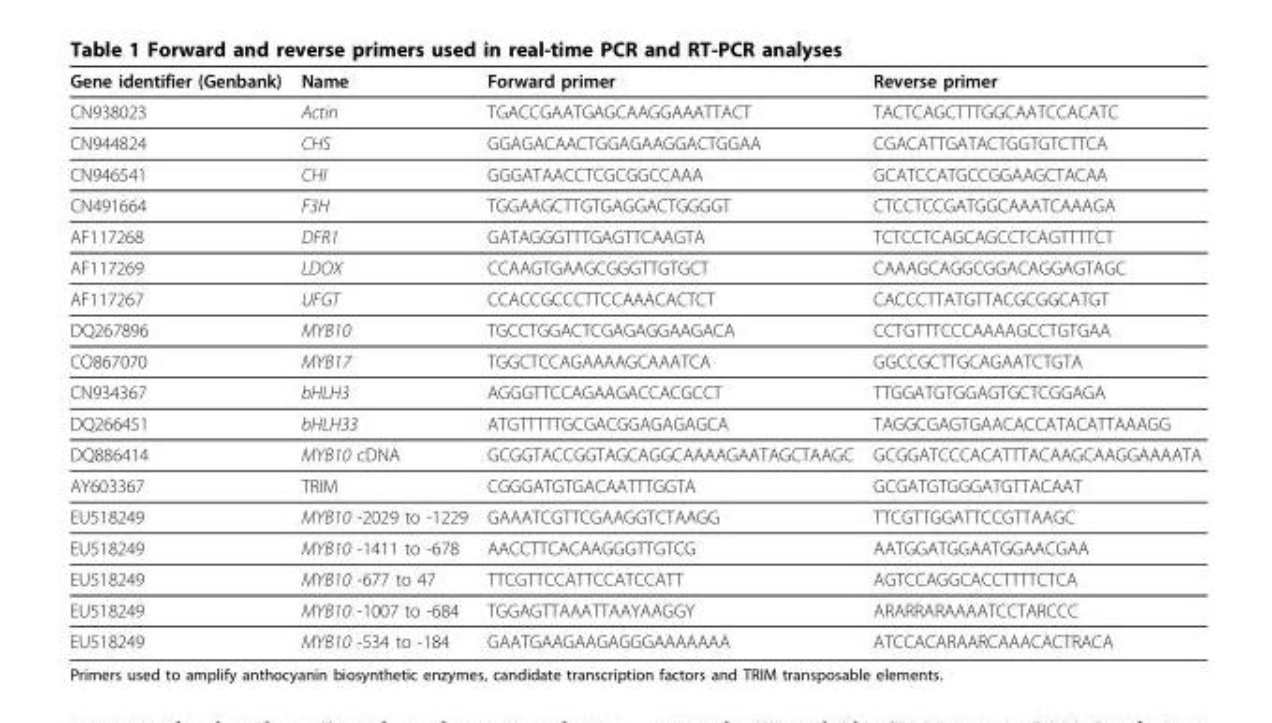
<table><thead><tr><td>Gene identifier (Genbank)</td><td>Name</td><td>Forward primer</td><td>Reverse primer</td></tr></thead><tbody><tr><td>CN938023</td><td>Actin</td><td>TGACCGAATGAGCAAGGAAATTACT</td><td>TACTCAGCTTTGGCAATCCACATC</td></tr><tr><td>CN944824</td><td>CHS</td><td>GGAGACAACTGGAGAAGGACTGGAA</td><td>CGACATTGATACTGGTGTCTTCA</td></tr><tr><td>CN946541</td><td>CHI</td><td>GGGATAACCTCGCGGCCAAA</td><td>GCATCCATGCCGGAAGCTACAA</td></tr><tr><td>CN491664</td><td>F3H</td><td>TGGAAGCTTGTGAGGACTGGGGT</td><td>CTCCTCCGATGGCAAATCAAAGA</td></tr><tr><td>AF117268</td><td>DFR1</td><td>GATAGGGTTTGAGTTCAAGTA</td><td>TCTCCTCAGCAGCCTCAGTTTTCT</td></tr><tr><td>AF117269</td><td>LDOX</td><td>CCAAGTGAAGCGGGTTGTGCT</td><td>CAAAGCAGGCGGACAGGAGTAGC</td></tr><tr><td>AF117267</td><td>UFGT</td><td>CCACCGCCCTTCCAAACACTCT</td><td>CACCCTTATGTTACGCGGCATGT</td></tr><tr><td>DQ267896</td><td>MYB10</td><td>TGCCTGGACTCGAGAGGAAGACA</td><td>CCTGTTTCCCAAAAGCCTGTGAA</td></tr><tr><td>CO867070</td><td>MYB17</td><td>TGGCTCCAGAAAAGCAAATCA</td><td>GGCCGCTTGCAGAATCTGTA</td></tr><tr><td>CN934367</td><td>bHLH3</td><td>AGGGTTCCAGAAGACCACGCCT</td><td>TTGGATGTGGAGTGCTCGGAGA</td></tr><tr><td>DQ266451</td><td>bHLH33</td><td>ATGTTTTTGCGACGGAGAGAGCA</td><td>TAGGCGAGTGAACACCATACATTAAAGG</td></tr><tr><td>DQ886414</td><td>MYB10 cDNA</td><td>GCGGTACCGGTAGCAGGCAAAAGAATAGCTAAGC</td><td>GCGGATCCCACATTTACAAGCAAGGAAAATA</td></tr><tr><td>AY603367</td><td>TRIM</td><td>CGGGATGTGACAATTTGGTA</td><td>GCGATGTGGGATGTTACAAT</td></tr><tr><td>EU518249</td><td>MYB10 -2029 to -1229</td><td>GAAATCGTTCGAAGGTCTAAGG</td><td>TTCGTTGGATTCCGTTAAGC</td></tr><tr><td>EU518249</td><td>MYB10 -1411 to -678</td><td>AACCTTCACAAGGGTTGTCG</td><td>AATGGATGGAATGGAACGAA</td></tr><tr><td>EU518249</td><td>MYB10 -677 to 47</td><td>TTCGTTCCATTCCATCCATT</td><td>AGTCCAGGCACCTTTTCTCA</td></tr><tr><td>EU518249</td><td>MYB10 -1007 to -684</td><td>TGGAGTTAAATTAAYAAGGY</td><td>ARARRARAAAATCCTARCCC</td></tr><tr><td>EU518249</td><td>MYB10 -534 to -184</td><td>GAATGAAGAAGAGGGAAAAAAA</td><td>ATCCACARAARCAAACACTRACA</td></tr></tbody></table>